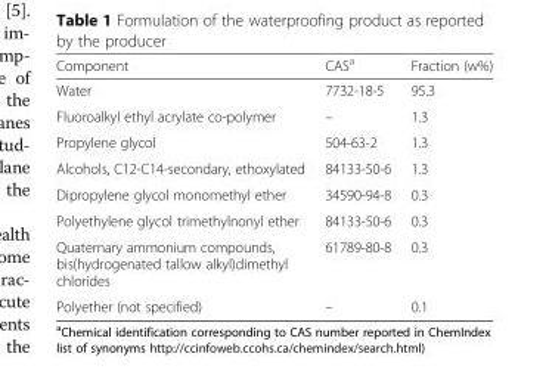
<table><thead><tr><td>Component</td><td>CAS<sup>a</sup></td><td>Fraction (w%)</td></tr></thead><tbody><tr><td>Water</td><td>7732-18-5</td><td>95.3</td></tr><tr><td>Fluoroalkyl ethyl acrylate co-polymer</td><td>–</td><td>1.3</td></tr><tr><td>Propylene glycol</td><td>504-63-2</td><td>1.3</td></tr><tr><td>Alcohols, C12-C14-secondary, ethoxylated</td><td>84133-50-6</td><td>1.3</td></tr><tr><td>Dipropylene glycol monomethyl ether</td><td>34590-94-8</td><td>0.3</td></tr><tr><td>Polyethylene glycol trimethylnonyl ether</td><td>84133-50-6</td><td>0.3</td></tr><tr><td>Quaternary ammonium compounds, bis(hydrogenated tallow alkyl)dimethyl chlorides</td><td>61789-80-8</td><td>0.3</td></tr><tr><td>Polyether (not specified)</td><td>–</td><td>0.1</td></tr></tbody></table>